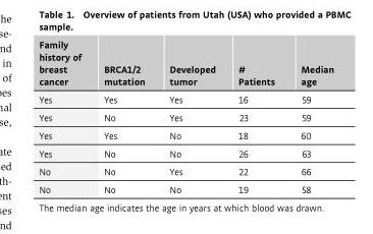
<table><thead><tr><td>Family history of breast cancer</td><td>BRCA1/2 mutation</td><td>Developed tumor</td><td># Patients</td><td>Median age</td></tr></thead><tbody><tr><td>Yes</td><td>Yes</td><td>Yes</td><td>16</td><td>59</td></tr><tr><td>Yes</td><td>No</td><td>Yes</td><td>23</td><td>59</td></tr><tr><td>Yes</td><td>Yes</td><td>No</td><td>18</td><td>60</td></tr><tr><td>Yes</td><td>No</td><td>No</td><td>26</td><td>63</td></tr><tr><td>No</td><td>No</td><td>Yes</td><td>22</td><td>66</td></tr><tr><td>No</td><td>No</td><td>No</td><td>19</td><td>58</td></tr></tbody></table>